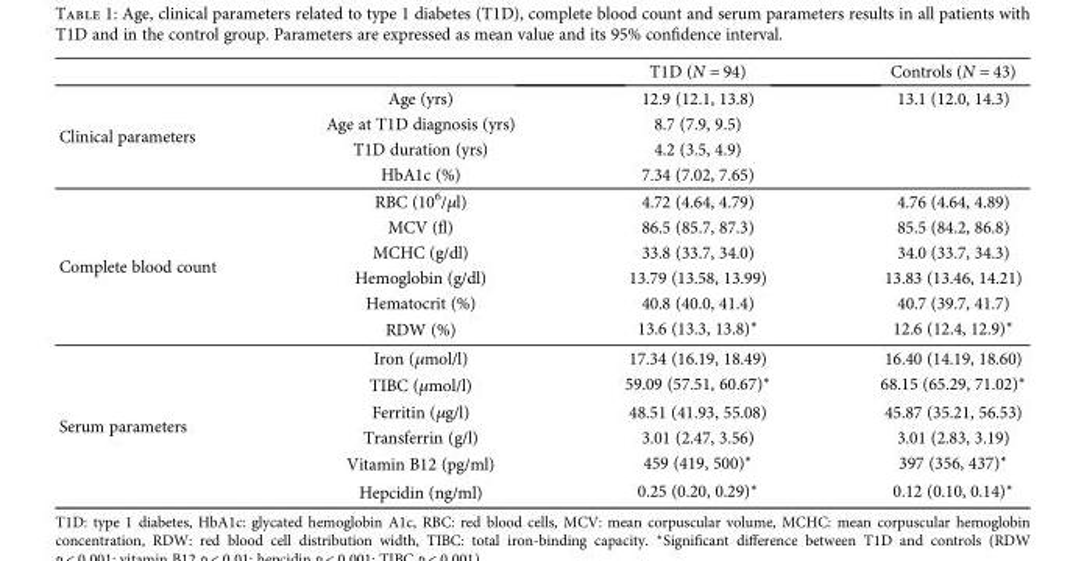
<table><thead><tr><td></td><td></td><td>T1D (N = 94)</td><td>Controls (N = 43)</td></tr></thead><tbody><tr><td rowspan="4">Clinical parameters</td><td>Age (yrs)</td><td>12.9 (12.1, 13.8)</td><td>13.1 (12.0, 14.3)</td></tr><tr><td>Age at T1D diagnosis (yrs)</td><td>8.7 (7.9, 9.5)</td><td rowspan="3"></td></tr><tr><td>T1D duration (yrs)</td><td>4.2 (3.5, 4.9)</td></tr><tr><td>HbA1c (%)</td><td>7.34 (7.02, 7.65)</td></tr><tr><td rowspan="6">Complete blood count</td><td>RBC (10<sup>6</sup>/μl)</td><td>4.72 (4.64, 4.79)</td><td>4.76 (4.64, 4.89)</td></tr><tr><td>MCV (fl)</td><td>86.5 (85.7, 87.3)</td><td>85.5 (84.2, 86.8)</td></tr><tr><td>MCHC (g/dl)</td><td>33.8 (33.7, 34.0)</td><td>34.0 (33.7, 34.3)</td></tr><tr><td>Hemoglobin (g/dl)</td><td>13.79 (13.58, 13.99)</td><td>13.83 (13.46, 14.21)</td></tr><tr><td>Hematocrit (%)</td><td>40.8 (40.0, 41.4)</td><td>40.7 (39.7, 41.7)</td></tr><tr><td>RDW (%)</td><td>13.6 (13.3, 13.8)∗</td><td>12.6 (12.4, 12.9)∗</td></tr><tr><td rowspan="6">Serum parameters</td><td>Iron (μmol/l)</td><td>17.34 (16.19, 18.49)</td><td>16.40 (14.19, 18.60)</td></tr><tr><td>TIBC (μmol/l)</td><td>59.09 (57.51, 60.67)∗</td><td>68.15 (65.29, 71.02)∗</td></tr><tr><td>Ferritin (μg/l)</td><td>48.51 (41.93, 55.08)</td><td>45.87 (35.21, 56.53)</td></tr><tr><td>Transferrin (g/l)</td><td>3.01 (2.47, 3.56)</td><td>3.01 (2.83, 3.19)</td></tr><tr><td>Vitamin B12 (pg/ml)</td><td>459 (419, 500)∗</td><td>397 (356, 437)∗</td></tr><tr><td>Hepcidin (ng/ml)</td><td>0.25 (0.20, 0.29)∗</td><td>0.12 (0.10, 0.14)∗</td></tr></tbody></table>